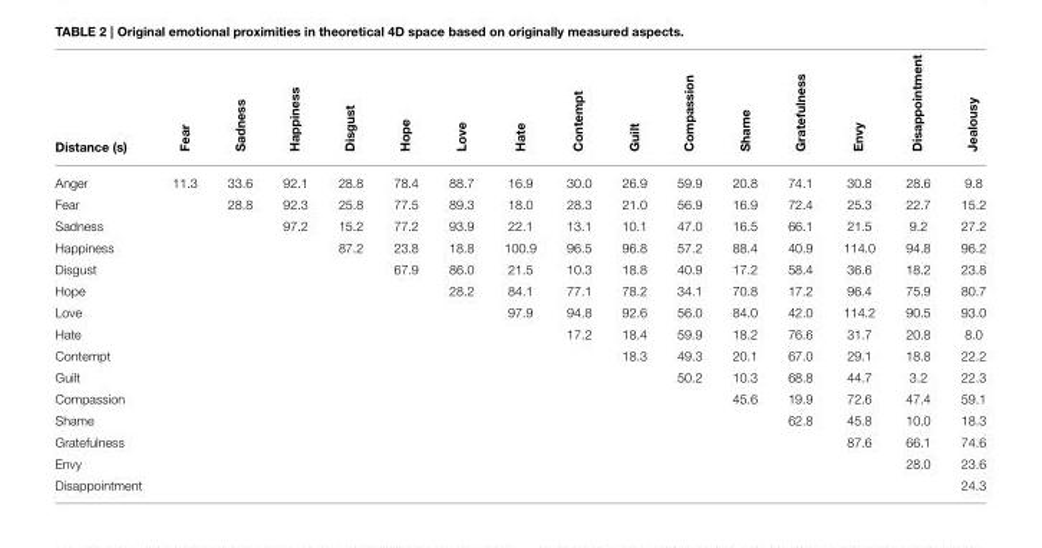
<table><thead><tr><td>Distance (s)</td><td>Fear</td><td>Sadness</td><td>Happiness</td><td>Disgust</td><td>Hope</td><td>Love</td><td>Hate</td><td>Contempt</td><td>Guilt</td><td>Compassion</td><td>Shame</td><td>Gratefulness</td><td>Envy</td><td>Disappointment</td><td>Jealousy</td></tr></thead><tbody><tr><td>Anger</td><td>11.3</td><td>33.6</td><td>92.1</td><td>28.8</td><td>78.4</td><td>88.7</td><td>16.9</td><td>30.0</td><td>26.9</td><td>59.9</td><td>20.8</td><td>74.1</td><td>30.8</td><td>28.6</td><td>9.8</td></tr><tr><td>Fear</td><td></td><td>28.8</td><td>92.3</td><td>25.8</td><td>77.5</td><td>89.3</td><td>18.0</td><td>28.3</td><td>21.0</td><td>56.9</td><td>16.9</td><td>72.4</td><td>25.3</td><td>22.7</td><td>15.2</td></tr><tr><td>Sadness</td><td></td><td></td><td>97.2</td><td>15.2</td><td>77.2</td><td>93.9</td><td>22.1</td><td>13.1</td><td>10.1</td><td>47.0</td><td>16.5</td><td>66.1</td><td>21.5</td><td>9.2</td><td>27.2</td></tr><tr><td>Happiness</td><td></td><td></td><td></td><td>87.2</td><td>23.8</td><td>18.8</td><td>100.9</td><td>96.5</td><td>96.8</td><td>57.2</td><td>88.4</td><td>40.9</td><td>114.0</td><td>94.8</td><td>96.2</td></tr><tr><td>Disgust</td><td></td><td></td><td></td><td></td><td>67.9</td><td>86.0</td><td>21.5</td><td>10.3</td><td>18.8</td><td>40.9</td><td>17.2</td><td>58.4</td><td>36.6</td><td>18.2</td><td>23.8</td></tr><tr><td>Hope</td><td></td><td></td><td></td><td></td><td></td><td>28.2</td><td>84.1</td><td>77.1</td><td>78.2</td><td>34.1</td><td>70.8</td><td>17.2</td><td>96.4</td><td>75.9</td><td>80.7</td></tr><tr><td>Love</td><td></td><td></td><td></td><td></td><td></td><td></td><td>97.9</td><td>94.8</td><td>92.6</td><td>56.0</td><td>84.0</td><td>42.0</td><td>114.2</td><td>90.5</td><td>93.0</td></tr><tr><td>Hate</td><td></td><td></td><td></td><td></td><td></td><td></td><td></td><td>17.2</td><td>18.4</td><td>59.9</td><td>18.2</td><td>76.6</td><td>31.7</td><td>20.8</td><td>8.0</td></tr><tr><td>Contempt</td><td></td><td></td><td></td><td></td><td></td><td></td><td></td><td></td><td>18.3</td><td>49.3</td><td>20.1</td><td>67.0</td><td>29.1</td><td>18.8</td><td>22.2</td></tr><tr><td>Guilt</td><td></td><td></td><td></td><td></td><td></td><td></td><td></td><td></td><td></td><td>50.2</td><td>10.3</td><td>68.8</td><td>44.7</td><td>3.2</td><td>22.3</td></tr><tr><td>Compassion</td><td></td><td></td><td></td><td></td><td></td><td></td><td></td><td></td><td></td><td></td><td>45.6</td><td>19.9</td><td>72.6</td><td>47.4</td><td>59.1</td></tr><tr><td>Shame</td><td></td><td></td><td></td><td></td><td></td><td></td><td></td><td></td><td></td><td></td><td></td><td>62.8</td><td>45.8</td><td>10.0</td><td>18.3</td></tr><tr><td>Gratefulness</td><td></td><td></td><td></td><td></td><td></td><td></td><td></td><td></td><td></td><td></td><td></td><td></td><td>87.6</td><td>66.1</td><td>74.6</td></tr><tr><td>Envy</td><td></td><td></td><td></td><td></td><td></td><td></td><td></td><td></td><td></td><td></td><td></td><td></td><td></td><td>28.0</td><td>23.6</td></tr><tr><td>Disappointment</td><td></td><td></td><td></td><td></td><td></td><td></td><td></td><td></td><td></td><td></td><td></td><td></td><td></td><td></td><td>24.3</td></tr></tbody></table>